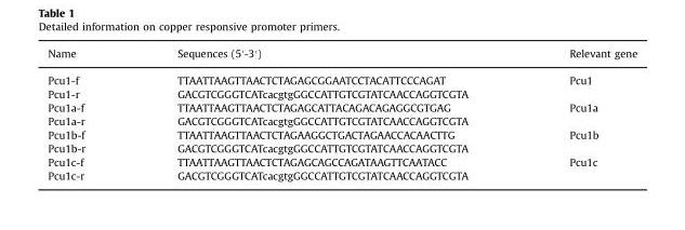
<table><thead><tr><td>Name</td><td>Sequences (5′-3′)</td><td>Relevant gene</td></tr></thead><tbody><tr><td>Pcu1-f</td><td>TTAATTAAGTTAACTCTAGAGCGGAATCCTACATTCCCAGAT</td><td rowspan="2">Pcu1</td></tr><tr><td>Pcu1-r</td><td>GACGTCGGGTCATcacgtgGGCCATTGTCGTATCAACCAGGTCGTA</td></tr><tr><td>Pcu1a-f</td><td>TTAATTAAGTTAACTCTAGAGCATTACAGACAGAGGCGTGAG</td><td rowspan="2">Pcu1a</td></tr><tr><td>Pcu1a-r</td><td>GACGTCGGGTCATcacgtgGGCCATTGTCGTATCAACCAGGTCGTA</td></tr><tr><td>Pcu1b-f</td><td>TTAATTAAGTTAACTCTAGAAGGCTGACTAGAACCACAACTTG</td><td rowspan="2">Pcu1b</td></tr><tr><td>Pcu1b-r</td><td>GACGTCGGGTCATcacgtgGGCCATTGTCGTATCAACCAGGTCGTA</td></tr><tr><td>Pcu1c-f</td><td>TTAATTAAGTTAACTCTAGAGCAGCCAGATAAGTTCAATACC</td><td rowspan="2">Pcu1c</td></tr><tr><td>Pcu1c-r</td><td>GACGTCGGGTCATcacgtgGGCCATTGTCGTATCAACCAGGTCGTA</td></tr></tbody></table>